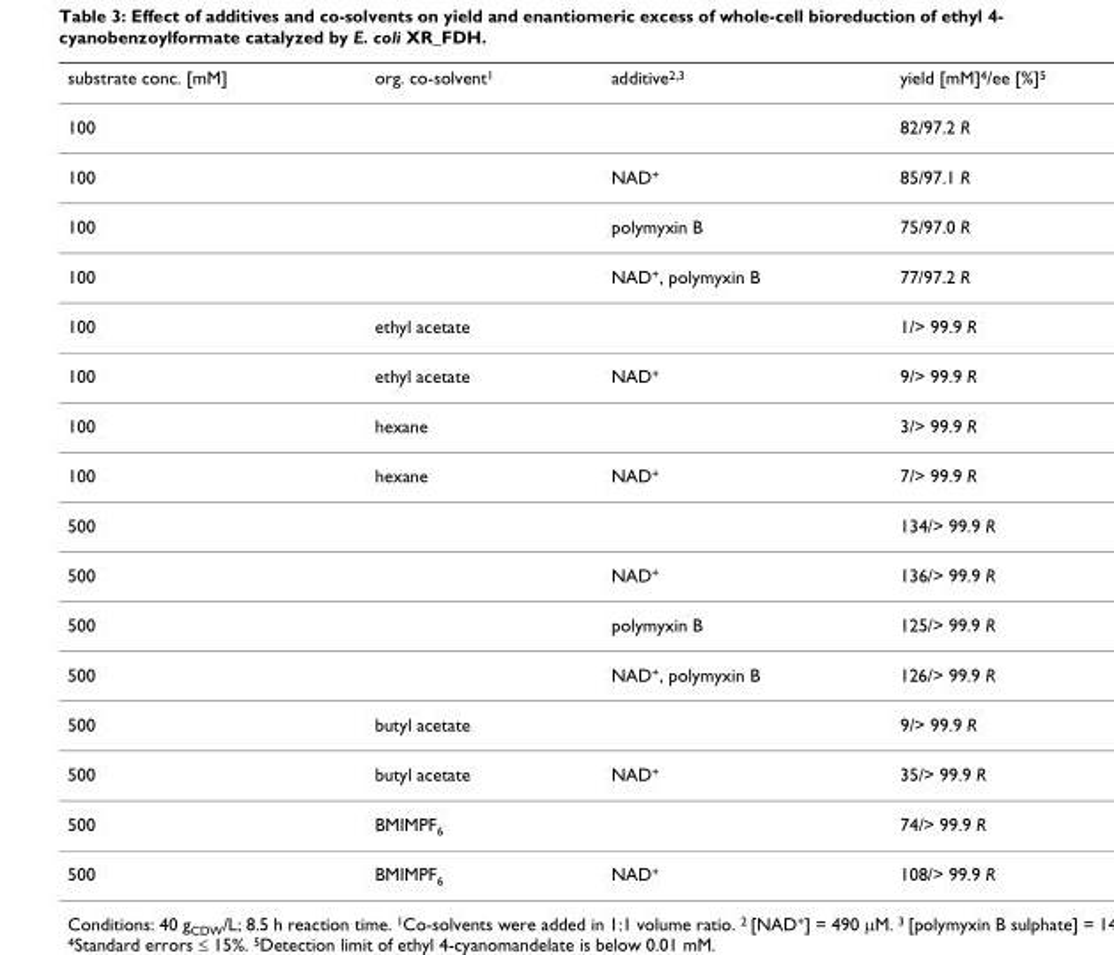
<table><thead><tr><td>substrate conc. [mM]</td><td>org. co-solvent<sup>1</sup></td><td>additive<sup>2,3</sup></td><td>yield [mM]<sup>4</sup>/ee [%]<sup>5</sup></td></tr></thead><tbody><tr><td>100</td><td></td><td></td><td>82/97.2 R</td></tr><tr><td>100</td><td></td><td>NAD<sup>+</sup></td><td>85/97.1 R</td></tr><tr><td>100</td><td></td><td>polymyxin B</td><td>75/97.0 R</td></tr><tr><td>100</td><td></td><td>NAD<sup>+</sup>, polymyxin B</td><td>77/97.2 R</td></tr><tr><td>100</td><td>ethyl acetate</td><td></td><td>1/&gt; 99.9 R</td></tr><tr><td>100</td><td>ethyl acetate</td><td>NAD<sup>+</sup></td><td>9/&gt; 99.9 R</td></tr><tr><td>100</td><td>hexane</td><td></td><td>3/&gt; 99.9 R</td></tr><tr><td>100</td><td>hexane</td><td>NAD<sup>+</sup></td><td>7/&gt; 99.9 R</td></tr><tr><td>500</td><td></td><td></td><td>134/&gt; 99.9 R</td></tr><tr><td>500</td><td></td><td>NAD<sup>+</sup></td><td>136/&gt; 99.9 R</td></tr><tr><td>500</td><td></td><td>polymyxin B</td><td>125/&gt; 99.9 R</td></tr><tr><td>500</td><td></td><td>NAD<sup>+</sup>, polymyxin B</td><td>126/&gt; 99.9 R</td></tr><tr><td>500</td><td>butyl acetate</td><td></td><td>9/&gt; 99.9 R</td></tr><tr><td>500</td><td>butyl acetate</td><td>NAD<sup>+</sup></td><td>35/&gt; 99.9 R</td></tr><tr><td>500</td><td>BMIMPF<sub>6</sub></td><td></td><td>74/&gt; 99.9 R</td></tr><tr><td>500</td><td>BMIMPF<sub>6</sub></td><td>NAD<sup>+</sup></td><td>108/&gt; 99.9 R</td></tr></tbody></table>